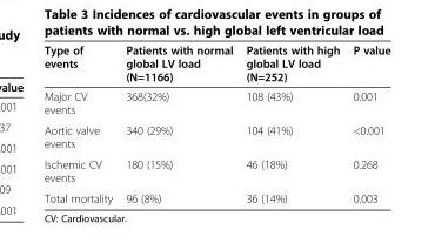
<table><thead><tr><td>Type of events</td><td>Patients with normal global LV load (N=1166)</td><td>Patients with high global LV load (N=252)</td><td>P value</td></tr></thead><tbody><tr><td>Major CV events</td><td>368(32%)</td><td>108 (43%)</td><td>0.001</td></tr><tr><td>Aortic valve events</td><td>340 (29%)</td><td>104 (41%)</td><td>&lt;0.001</td></tr><tr><td>Ischemic CV events</td><td>180 (15%)</td><td>46 (18%)</td><td>0.268</td></tr><tr><td>Total mortality</td><td>96 (8%)</td><td>36 (14%)</td><td>0.003</td></tr></tbody></table>